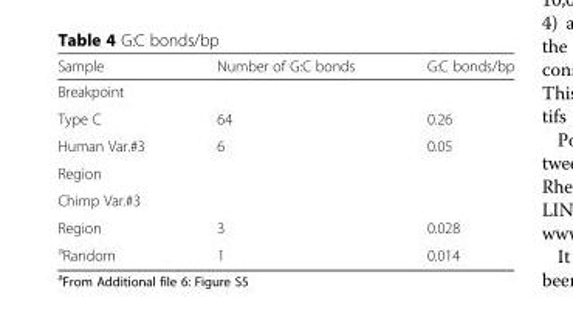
<table><thead><tr><td>Sample</td><td>Number of G:C bonds</td><td>G:C bonds/bp</td></tr></thead><tbody><tr><td colspan="3">Breakpoint</td></tr><tr><td>Type C</td><td>64</td><td>0.26</td></tr><tr><td>Human Var.#3</td><td>6</td><td>0.05</td></tr><tr><td colspan="3">Region</td></tr><tr><td colspan="3">Chimp Var.#3</td></tr><tr><td>Region</td><td>3</td><td>0.028</td></tr><tr><td><sup>a</sup>Random</td><td>1</td><td>0.014</td></tr></tbody></table>